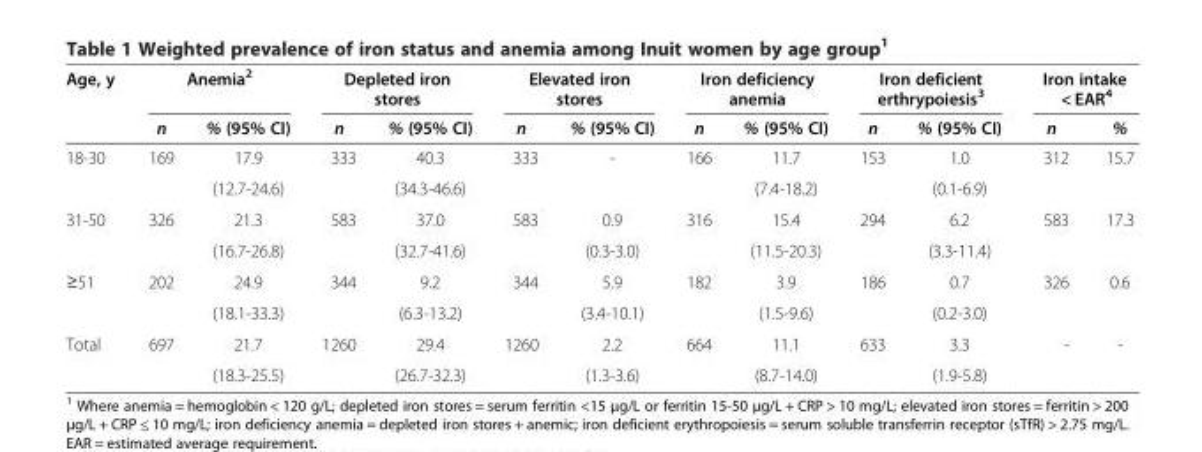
<table><thead><tr><td rowspan="2">Age, y</td><td colspan="2">Anemia<sup>2</sup></td><td colspan="2">Depleted iron stores</td><td colspan="2">Elevated iron stores</td><td colspan="2">Iron deficiency anemia</td><td colspan="2">Iron deficient erthrypoiesis<sup>3</sup></td><td colspan="2">Iron intake &lt; EAR<sup>4</sup></td></tr><tr><td>n</td><td>% (95% CI)</td><td>n</td><td>% (95% CI)</td><td>n</td><td>% (95% CI)</td><td>n</td><td>% (95% CI)</td><td>n</td><td>% (95% CI)</td><td>n</td><td>%</td></tr></thead><tbody><tr><td rowspan="2">18-30</td><td rowspan="2">169</td><td>17.9</td><td rowspan="2">333</td><td>40.3</td><td rowspan="2">333</td><td rowspan="2">-</td><td rowspan="2">166</td><td>11.7</td><td rowspan="2">153</td><td>1.0</td><td rowspan="2">312</td><td rowspan="2">15.7</td></tr><tr><td>(12.7-24.6)</td><td>(34.3-46.6)</td><td>(7.4-18.2)</td><td>(0.1-6.9)</td></tr><tr><td rowspan="2">31-50</td><td rowspan="2">326</td><td>21.3</td><td rowspan="2">583</td><td>37.0</td><td rowspan="2">583</td><td>0.9</td><td rowspan="2">316</td><td>15.4</td><td rowspan="2">294</td><td>6.2</td><td rowspan="2">583</td><td rowspan="2">17.3</td></tr><tr><td>(16.7-26.8)</td><td>(32.7-41.6)</td><td>(0.3-3.0)</td><td>(11.5-20.3)</td><td>(3.3-11.4)</td></tr><tr><td rowspan="2">≥51</td><td rowspan="2">202</td><td>24.9</td><td rowspan="2">344</td><td>9.2</td><td rowspan="2">344</td><td>5.9</td><td rowspan="2">182</td><td>3.9</td><td rowspan="2">186</td><td>0.7</td><td rowspan="2">326</td><td rowspan="2">0.6</td></tr><tr><td>(18.1-33.3)</td><td>(6.3-13.2)</td><td>(3.4-10.1)</td><td>(1.5-9.6)</td><td>(0.2-3.0)</td></tr><tr><td rowspan="2">Total</td><td>697</td><td>21.7</td><td>1260</td><td>29.4</td><td>1260</td><td>2.2</td><td>664</td><td>11.1</td><td>633</td><td>3.3</td><td>-</td><td>-</td></tr><tr><td></td><td>(18.3-25.5)</td><td></td><td>(26.7-32.3)</td><td></td><td>(1.3-3.6)</td><td></td><td>(8.7-14.0)</td><td></td><td>(1.9-5.8)</td><td></td><td></td></tr></tbody></table>